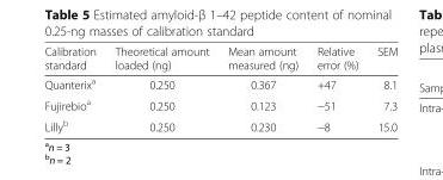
<table><thead><tr><td>Calibration standard</td><td>Theoretical amount loaded (ng)</td><td>Mean amount measured (ng)</td><td>Relative error (%)</td><td>SEM</td></tr></thead><tbody><tr><td>Quanterix<sup>a</sup></td><td>0.250</td><td>0.367</td><td>+47</td><td>8.1</td></tr><tr><td>Fujirebio<sup>a</sup></td><td>0.250</td><td>0.123</td><td>−51</td><td>7.3</td></tr><tr><td>Lilly<sup>b</sup></td><td>0.250</td><td>0.230</td><td>−8</td><td>15.0</td></tr></tbody></table>